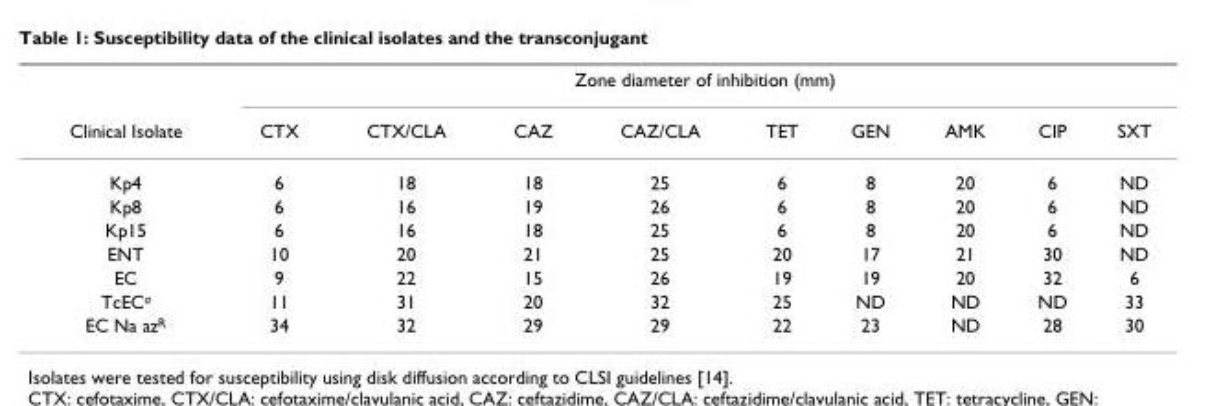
<table><thead><tr><td rowspan="2">Clinical Isolate</td><td colspan="9">Zone diameter of inhibition (mm)</td></tr><tr><td>CTX</td><td>CTX/CLA</td><td>CAZ</td><td>CAZ/CLA</td><td>TET</td><td>GEN</td><td>AMK</td><td>CIP</td><td>SXT</td></tr></thead><tbody><tr><td>Kp4</td><td>6</td><td>18</td><td>18</td><td>25</td><td>6</td><td>8</td><td>20</td><td>6</td><td>ND</td></tr><tr><td>Kp8</td><td>6</td><td>16</td><td>19</td><td>26</td><td>6</td><td>8</td><td>20</td><td>6</td><td>ND</td></tr><tr><td>Kp15</td><td>6</td><td>16</td><td>18</td><td>25</td><td>6</td><td>8</td><td>20</td><td>6</td><td>ND</td></tr><tr><td>ENT</td><td>10</td><td>20</td><td>21</td><td>25</td><td>20</td><td>17</td><td>21</td><td>30</td><td>ND</td></tr><tr><td>EC</td><td>9</td><td>22</td><td>15</td><td>26</td><td>19</td><td>19</td><td>20</td><td>32</td><td>6</td></tr><tr><td>TcEC<sup>a</sup></td><td>11</td><td>31</td><td>20</td><td>32</td><td>25</td><td>ND</td><td>ND</td><td>ND</td><td>33</td></tr><tr><td>EC Na az<sup>R</sup></td><td>34</td><td>32</td><td>29</td><td>29</td><td>22</td><td>23</td><td>ND</td><td>28</td><td>30</td></tr></tbody></table>